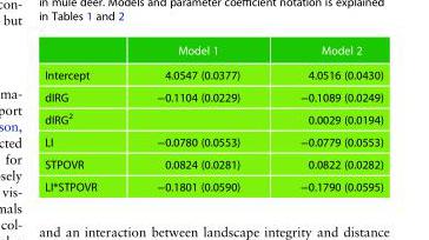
<table><thead><tr><td></td><td>Model 1</td><td>Model 2</td></tr></thead><tbody><tr><td>Intercept</td><td>4.0547 (0.0377)</td><td>4.0516 (0.0430)</td></tr><tr><td>dIRG</td><td>−0.1104 (0.0229)</td><td>−0.1089 (0.0249)</td></tr><tr><td>dIRG<sup>2</sup></td><td></td><td>0.0029 (0.0194)</td></tr><tr><td>LI</td><td>−0.0780 (0.0553)</td><td>−0.0779 (0.0553)</td></tr><tr><td>STPOVR</td><td>0.0824 (0.0281)</td><td>0.0822 (0.0282)</td></tr><tr><td>LI*STPOVR</td><td>−0.1801 (0.0590)</td><td>−0.1790 (0.0595)</td></tr></tbody></table>